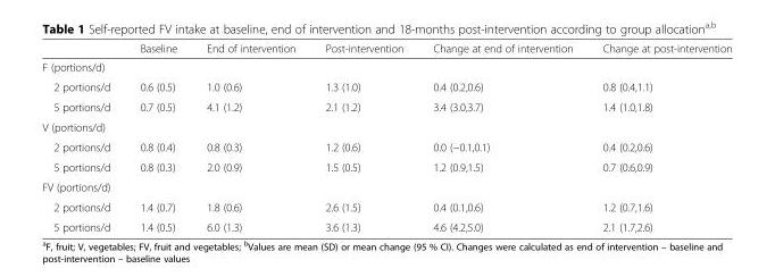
<table><thead><tr><td></td><td>Baseline</td><td>End of intervention</td><td>Post-intervention</td><td>Change at end of intervention</td><td>Change at post-intervention</td></tr></thead><tbody><tr><td colspan="6">F (portions/d)</td></tr><tr><td>2 portions/d</td><td>0.6 (0.5)</td><td>1.0 (0.6)</td><td>1.3 (1.0)</td><td>0.4 (0.2,0.6)</td><td>0.8 (0.4,1.1)</td></tr><tr><td>5 portions/d</td><td>0.7 (0.5)</td><td>4.1 (1.2)</td><td>2.1 (1.2)</td><td>3.4 (3.0,3.7)</td><td>1.4 (1.0,1.8)</td></tr><tr><td colspan="6">V (portions/d)</td></tr><tr><td>2 portions/d</td><td>0.8 (0.4)</td><td>0.8 (0.3)</td><td>1.2 (0.6)</td><td>0.0 (−0.1,0.1)</td><td>0.4 (0.2,0.6)</td></tr><tr><td>5 portions/d</td><td>0.8 (0.3)</td><td>2.0 (0.9)</td><td>1.5 (0.5)</td><td>1.2 (0.9,1.5)</td><td>0.7 (0.6,0.9)</td></tr><tr><td colspan="6">FV (portions/d)</td></tr><tr><td>2 portions/d</td><td>1.4 (0.7)</td><td>1.8 (0.6)</td><td>2.6 (1.5)</td><td>0.4 (0.1,0.6)</td><td>1.2 (0.7,1.6)</td></tr><tr><td>5 portions/d</td><td>1.4 (0.5)</td><td>6.0 (1.3)</td><td>3.6 (1.3)</td><td>4.6 (4.2,5.0)</td><td>2.1 (1.7,2.6)</td></tr></tbody></table>